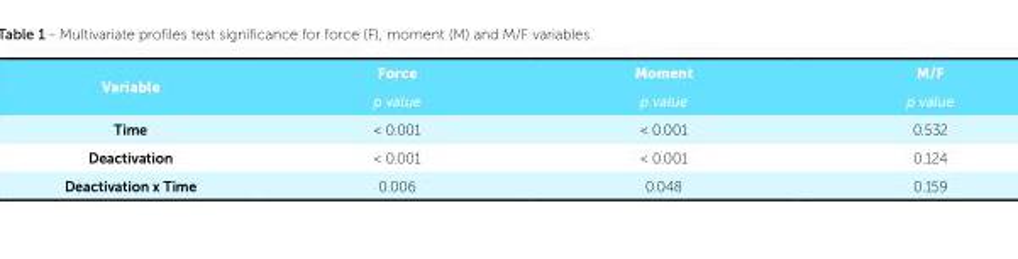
<table><tbody><tr><td rowspan="2">Variable</td><td>Force</td><td>Moment</td><td>M/F</td></tr><tr><td>p value</td><td>p value</td><td>p value</td></tr><tr><td>Time</td><td>&lt; 0.001</td><td>&lt; 0.001</td><td>0.532</td></tr><tr><td>Deactivation</td><td>&lt; 0.001</td><td>&lt; 0.001</td><td>0.124</td></tr><tr><td>Deactivation x Time</td><td>0.006</td><td>0.048</td><td>0.159</td></tr></tbody></table>